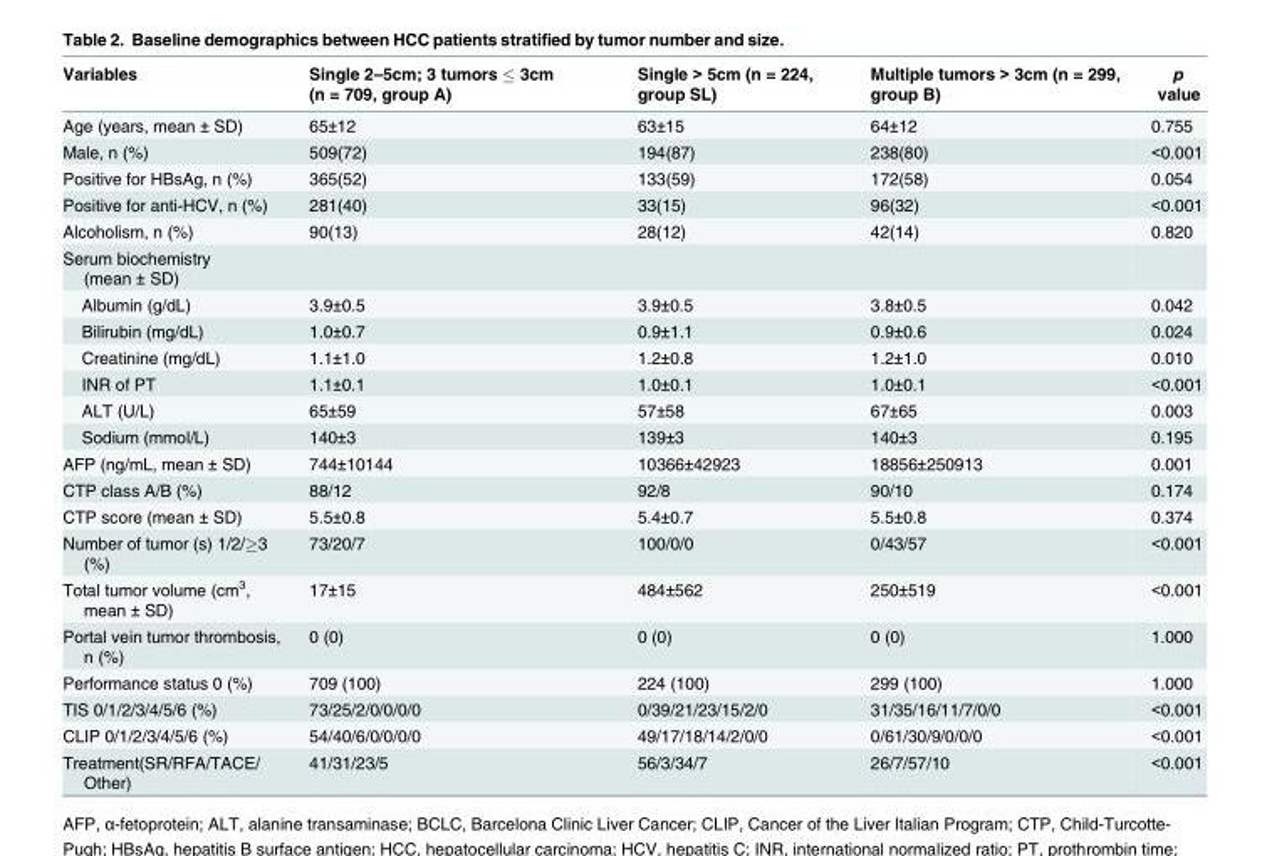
<table><thead><tr><td>Variables</td><td>Single 2–5cm; 3 tumors ≤ 3cm (n = 709, group A)</td><td>Single &gt; 5cm (n = 224, group SL)</td><td>Multiple tumors &gt; 3cm (n = 299, group B)</td><td>p value</td></tr></thead><tbody><tr><td>Age (years, mean ± SD)</td><td>65±12</td><td>63±15</td><td>64±12</td><td>0.755</td></tr><tr><td>Male, n (%)</td><td>509(72)</td><td>194(87)</td><td>238(80)</td><td>&lt;0.001</td></tr><tr><td>Positive for HBsAg, n (%)</td><td>365(52)</td><td>133(59)</td><td>172(58)</td><td>0.054</td></tr><tr><td>Positive for anti-HCV, n (%)</td><td>281(40)</td><td>33(15)</td><td>96(32)</td><td>&lt;0.001</td></tr><tr><td>Alcoholism, n (%)</td><td>90(13)</td><td>28(12)</td><td>42(14)</td><td>0.820</td></tr><tr><td colspan="5">Serum biochemistry (mean ± SD)</td></tr><tr><td>Albumin (g/dL)</td><td>3.9±0.5</td><td>3.9±0.5</td><td>3.8±0.5</td><td>0.042</td></tr><tr><td>Bilirubin (mg/dL)</td><td>1.0±0.7</td><td>0.9±1.1</td><td>0.9±0.6</td><td>0.024</td></tr><tr><td>Creatinine (mg/dL)</td><td>1.1±1.0</td><td>1.2±0.8</td><td>1.2±1.0</td><td>0.010</td></tr><tr><td>INR of PT</td><td>1.1±0.1</td><td>1.0±0.1</td><td>1.0±0.1</td><td>&lt;0.001</td></tr><tr><td>ALT (U/L)</td><td>65±59</td><td>57±58</td><td>67±65</td><td>0.003</td></tr><tr><td>Sodium (mmol/L)</td><td>140±3</td><td>139±3</td><td>140±3</td><td>0.195</td></tr><tr><td>AFP (ng/mL, mean ± SD)</td><td>744±10144</td><td>10366±42923</td><td>18856±250913</td><td>0.001</td></tr><tr><td>CTP class A/B (%)</td><td>88/12</td><td>92/8</td><td>90/10</td><td>0.174</td></tr><tr><td>CTP score (mean ± SD)</td><td>5.5±0.8</td><td>5.4±0.7</td><td>5.5±0.8</td><td>0.374</td></tr><tr><td>Number of tumor (s) 1/2/≥3 (%)</td><td>73/20/7</td><td>100/0/0</td><td>0/43/57</td><td>&lt;0.001</td></tr><tr><td>Total tumor volume (cm<sup>3</sup>, mean ± SD)</td><td>17±15</td><td>484±562</td><td>250±519</td><td>&lt;0.001</td></tr><tr><td>Portal vein tumor thrombosis, n (%)</td><td>0 (0)</td><td>0 (0)</td><td>0 (0)</td><td>1.000</td></tr><tr><td>Performance status 0 (%)</td><td>709 (100)</td><td>224 (100)</td><td>299 (100)</td><td>1.000</td></tr><tr><td>TIS 0/1/2/3/4/5/6 (%)</td><td>73/25/2/0/0/0/0</td><td>0/39/21/23/15/2/0</td><td>31/35/16/11/7/0/0</td><td>&lt;0.001</td></tr><tr><td>CLIP 0/1/2/3/4/5/6 (%)</td><td>54/40/6/0/0/0/0</td><td>49/17/18/14/2/0/0</td><td>0/61/30/9/0/0/0</td><td>&lt;0.001</td></tr><tr><td>Treatment(SR/RFA/TACE/ Other)</td><td>41/31/23/5</td><td>56/3/34/7</td><td>26/7/57/10</td><td>&lt;0.001</td></tr></tbody></table>